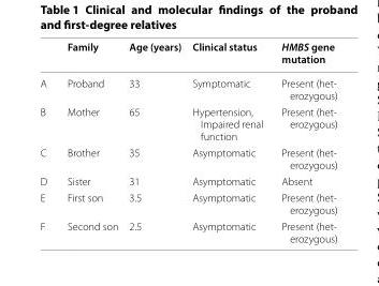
<table><thead><tr><td></td><td>Family</td><td>Age (years)</td><td>Clinical status</td><td>HMBS gene mutation</td></tr></thead><tbody><tr><td>A</td><td>Proband</td><td>33</td><td>Symptomatic</td><td>Present (het- erozygous)</td></tr><tr><td>B</td><td>Mother</td><td>65</td><td>Hypertension, Impaired renal function</td><td>Present (het- erozygous)</td></tr><tr><td>C</td><td>Brother</td><td>35</td><td>Asymptomatic</td><td>Present (het- erozygous)</td></tr><tr><td>D</td><td>Sister</td><td>31</td><td>Asymptomatic</td><td>Absent</td></tr><tr><td>E</td><td>First son</td><td>3.5</td><td>Asymptomatic</td><td>Present (het- erozygous)</td></tr><tr><td>F</td><td>Second son</td><td>2.5</td><td>Asymptomatic</td><td>Present (het- erozygous)</td></tr></tbody></table>